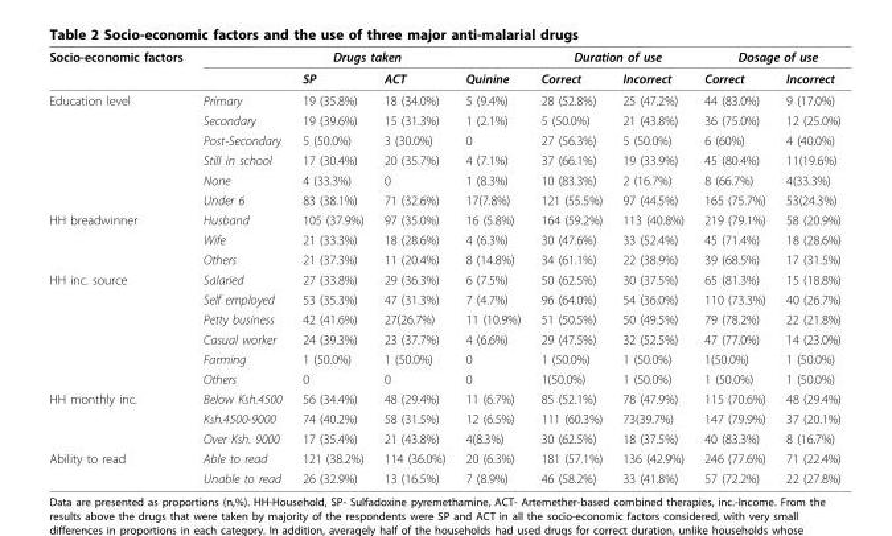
<table><thead><tr><td rowspan="2">Socio-economic factors</td><td colspan="4">Drugs taken</td><td colspan="2">Duration of use</td><td colspan="2">Dosage of use</td></tr><tr><td></td><td>SP</td><td>ACT</td><td>Quinine</td><td>Correct</td><td>Incorrect</td><td>Correct</td><td>Incorrect</td></tr></thead><tbody><tr><td rowspan="6">Education level</td><td>Primary</td><td>19 (35.8%)</td><td>18 (34.0%)</td><td>5 (9.4%)</td><td>28 (52.8%)</td><td>25 (47.2%)</td><td>44 (83.0%)</td><td>9 (17.0%)</td></tr><tr><td>Secondary</td><td>19 (39.6%)</td><td>15 (31.3%)</td><td>1 (2.1%)</td><td>5 (50.0%)</td><td>21 (43.8%)</td><td>36 (75.0%)</td><td>12 (25.0%)</td></tr><tr><td>Post-Secondary</td><td>5 (50.0%)</td><td>3 (30.0%)</td><td>0</td><td>27 (56.3%)</td><td>5 (50.0%)</td><td>6 (60%)</td><td>4 (40.0%)</td></tr><tr><td>Still in school</td><td>17 (30.4%)</td><td>20 (35.7%)</td><td>4 (7.1%)</td><td>37 (66.1%)</td><td>19 (33.9%)</td><td>45 (80.4%)</td><td>11(19.6%)</td></tr><tr><td>None</td><td>4 (33.3%)</td><td>0</td><td>1 (8.3%)</td><td>10 (83.3%)</td><td>2 (16.7%)</td><td>8 (66.7%)</td><td>4(33.3%)</td></tr><tr><td>Under 6</td><td>83 (38.1%)</td><td>71 (32.6%)</td><td>17(7.8%)</td><td>121 (55.5%)</td><td>97 (44.5%)</td><td>165 (75.7%)</td><td>53(24.3%)</td></tr><tr><td rowspan="3">HH breadwinner</td><td>Husband</td><td>105 (37.9%)</td><td>97 (35.0%)</td><td>16 (5.8%)</td><td>164 (59.2%)</td><td>113 (40.8%)</td><td>219 (79.1%)</td><td>58 (20.9%)</td></tr><tr><td>Wife</td><td>21 (33.3%)</td><td>18 (28.6%)</td><td>4 (6.3%)</td><td>30 (47.6%)</td><td>33 (52.4%)</td><td>45 (71.4%)</td><td>18 (28.6%)</td></tr><tr><td>Others</td><td>21 (37.3%)</td><td>11 (20.4%)</td><td>8 (14.8%)</td><td>34 (61.1%)</td><td>22 (38.9%)</td><td>39 (68.5%)</td><td>17 (31.5%)</td></tr><tr><td rowspan="6">HH inc. source</td><td>Salaried</td><td>27 (33.8%)</td><td>29 (36.3%)</td><td>6 (7.5%)</td><td>50 (62.5%)</td><td>30 (37.5%)</td><td>65 (81.3%)</td><td>15 (18.8%)</td></tr><tr><td>Self employed</td><td>53 (35.3%)</td><td>47 (31.3%)</td><td>7 (4.7%)</td><td>96 (64.0%)</td><td>54 (36.0%)</td><td>110 (73.3%)</td><td>40 (26.7%)</td></tr><tr><td>Petty business</td><td>42 (41.6%)</td><td>27(26.7%)</td><td>11 (10.9%)</td><td>51 (50.5%)</td><td>50 (49.5%)</td><td>79 (78.2%)</td><td>22 (21.8%)</td></tr><tr><td>Casual worker</td><td>24 (39.3%)</td><td>23 (37.7%)</td><td>4 (6.6%)</td><td>29 (47.5%)</td><td>32 (52.5%)</td><td>47 (77.0%)</td><td>14 (23.0%)</td></tr><tr><td>Farming</td><td>1 (50.0%)</td><td>1 (50.0%)</td><td>0</td><td>1 (50.0%)</td><td>1 (50.0%)</td><td>1(50.0%)</td><td>1 (50.0%)</td></tr><tr><td>Others</td><td>0</td><td>0</td><td>0</td><td>1(50.0%)</td><td>1 (50.0%)</td><td>1 (50.0%)</td><td>1 (50.0%)</td></tr><tr><td rowspan="3">HH monthly inc.</td><td>Below Ksh.4500</td><td>56 (34.4%)</td><td>48 (29.4%)</td><td>11 (6.7%)</td><td>85 (52.1%)</td><td>78 (47.9%)</td><td>115 (70.6%)</td><td>48 (29.4%)</td></tr><tr><td>Ksh.4500-9000</td><td>74 (40.2%)</td><td>58 (31.5%)</td><td>12 (6.5%)</td><td>111 (60.3%)</td><td>73(39.7%)</td><td>147 (79.9%)</td><td>37 (20.1%)</td></tr><tr><td>Over Ksh. 9000</td><td>17 (35.4%)</td><td>21 (43.8%)</td><td>4(8.3%)</td><td>30 (62.5%)</td><td>18 (37.5%)</td><td>40 (83.3%)</td><td>8 (16.7%)</td></tr><tr><td rowspan="2">Ability to read</td><td>Able to read</td><td>121 (38.2%)</td><td>114 (36.0%)</td><td>20 (6.3%)</td><td>181 (57.1%)</td><td>136 (42.9%)</td><td>246 (77.6%)</td><td>71 (22.4%)</td></tr><tr><td>Unable to read</td><td>26 (32.9%)</td><td>13 (16.5%)</td><td>7 (8.9%)</td><td>46 (58.2%)</td><td>33 (41.8%)</td><td>57 (72.2%)</td><td>22 (27.8%)</td></tr></tbody></table>